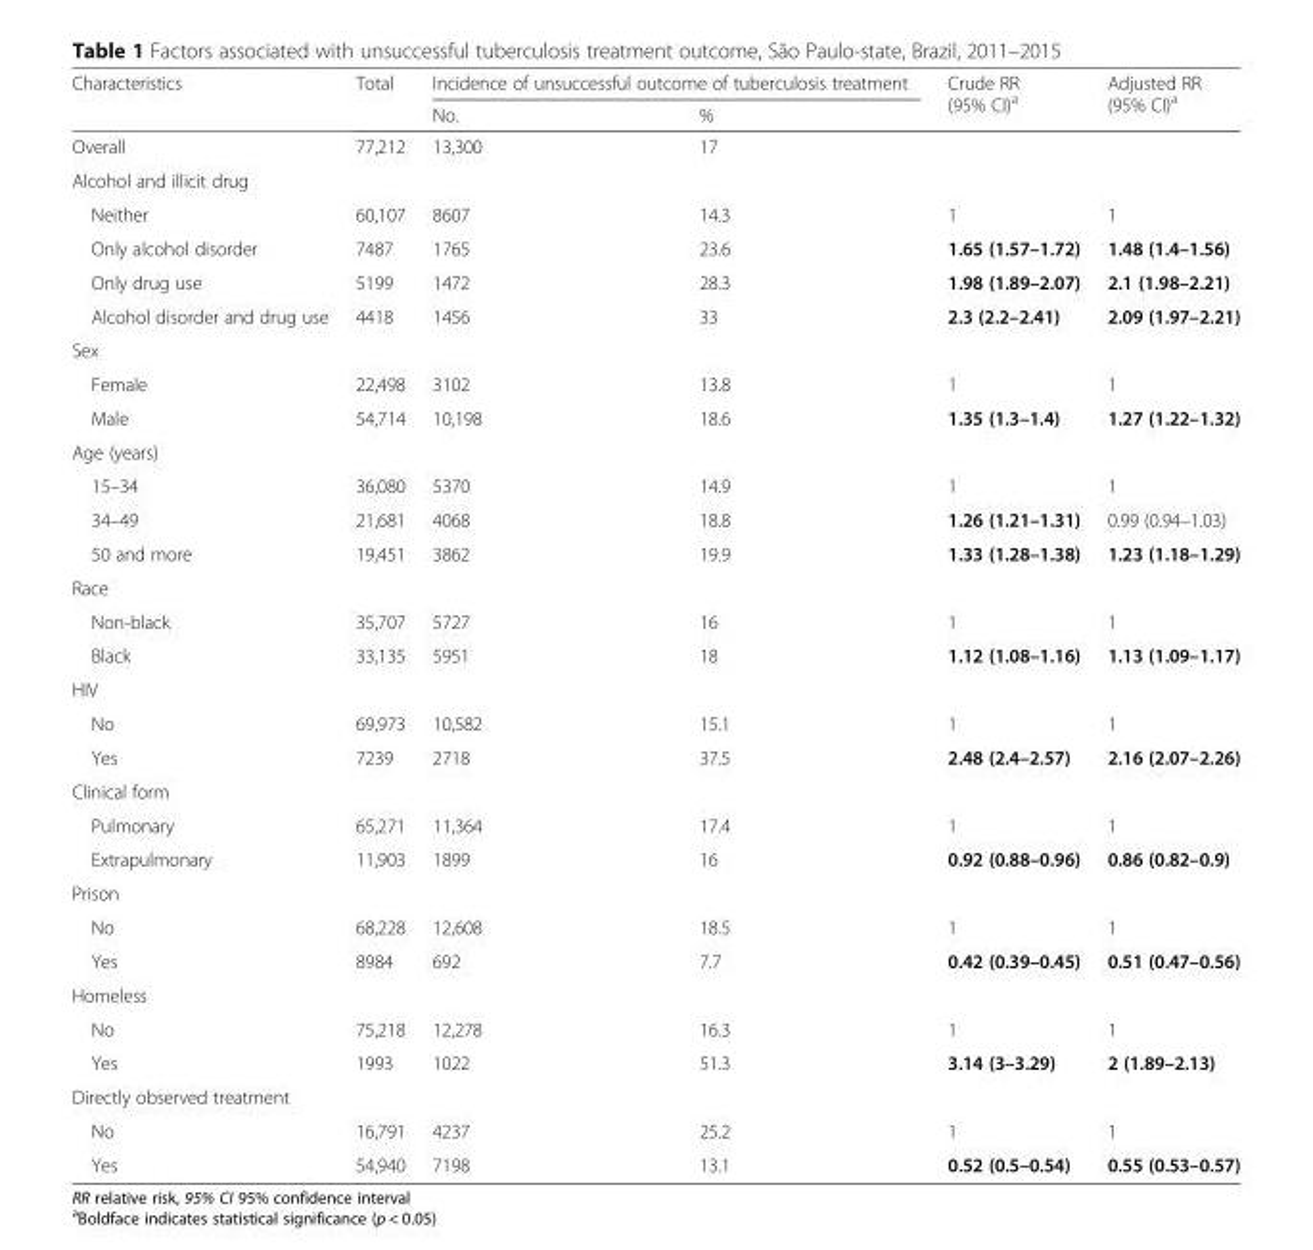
<table><thead><tr><td rowspan="2">Characteristics</td><td rowspan="2">Total</td><td colspan="2">Incidence of unsuccessful outcome of tuberculosis treatment</td><td rowspan="2">Crude RR (95% CI)<sup>a</sup></td><td rowspan="2">Adjusted RR (95% CI)<sup>a</sup></td></tr><tr><td>No.</td><td>%</td></tr></thead><tbody><tr><td>Overall</td><td>77,212</td><td>13,300</td><td>17</td><td></td><td></td></tr><tr><td colspan="6">Alcohol and illicit drug</td></tr><tr><td>Neither</td><td>60,107</td><td>8607</td><td>14.3</td><td>1</td><td>1</td></tr><tr><td>Only alcohol disorder</td><td>7487</td><td>1765</td><td>23.6</td><td>1.65 (1.57–1.72)</td><td>1.48 (1.4–1.56)</td></tr><tr><td>Only drug use</td><td>5199</td><td>1472</td><td>28.3</td><td>1.98 (1.89–2.07)</td><td>2.1 (1.98–2.21)</td></tr><tr><td>Alcohol disorder and drug use</td><td>4418</td><td>1456</td><td>33</td><td>2.3 (2.2–2.41)</td><td>2.09 (1.97–2.21)</td></tr><tr><td colspan="6">Sex</td></tr><tr><td>Female</td><td>22,498</td><td>3102</td><td>13.8</td><td>1</td><td>1</td></tr><tr><td>Male</td><td>54,714</td><td>10,198</td><td>18.6</td><td>1.35 (1.3–1.4)</td><td>1.27 (1.22–1.32)</td></tr><tr><td colspan="6">Age (years)</td></tr><tr><td>15–34</td><td>36,080</td><td>5370</td><td>14.9</td><td>1</td><td>1</td></tr><tr><td>34–49</td><td>21,681</td><td>4068</td><td>18.8</td><td>1.26 (1.21–1.31)</td><td>0.99 (0.94–1.03)</td></tr><tr><td>50 and more</td><td>19,451</td><td>3862</td><td>19.9</td><td>1.33 (1.28–1.38)</td><td>1.23 (1.18–1.29)</td></tr><tr><td colspan="6">Race</td></tr><tr><td>Non-black</td><td>35,707</td><td>5727</td><td>16</td><td>1</td><td>1</td></tr><tr><td>Black</td><td>33,135</td><td>5951</td><td>18</td><td>1.12 (1.08–1.16)</td><td>1.13 (1.09–1.17)</td></tr><tr><td colspan="6">HIV</td></tr><tr><td>No</td><td>69,973</td><td>10,582</td><td>15.1</td><td>1</td><td>1</td></tr><tr><td>Yes</td><td>7239</td><td>2718</td><td>37.5</td><td>2.48 (2.4–2.57)</td><td>2.16 (2.07–2.26)</td></tr><tr><td colspan="6">Clinical form</td></tr><tr><td>Pulmonary</td><td>65,271</td><td>11,364</td><td>17.4</td><td>1</td><td>1</td></tr><tr><td>Extrapulmonary</td><td>11,903</td><td>1899</td><td>16</td><td>0.92 (0.88–0.96)</td><td>0.86 (0.82–0.9)</td></tr><tr><td colspan="6">Prison</td></tr><tr><td>No</td><td>68,228</td><td>12,608</td><td>18.5</td><td>1</td><td>1</td></tr><tr><td>Yes</td><td>8984</td><td>692</td><td>7.7</td><td>0.42 (0.39–0.45)</td><td>0.51 (0.47–0.56)</td></tr><tr><td colspan="6">Homeless</td></tr><tr><td>No</td><td>75,218</td><td>12,278</td><td>16.3</td><td>1</td><td>1</td></tr><tr><td>Yes</td><td>1993</td><td>1022</td><td>51.3</td><td>3.14 (3–3.29)</td><td>2 (1.89–2.13)</td></tr><tr><td colspan="6">Directly observed treatment</td></tr><tr><td>No</td><td>16,791</td><td>4237</td><td>25.2</td><td>1</td><td>1</td></tr><tr><td>Yes</td><td>54,940</td><td>7198</td><td>13.1</td><td>0.52 (0.5–0.54)</td><td>0.55 (0.53–0.57)</td></tr></tbody></table>